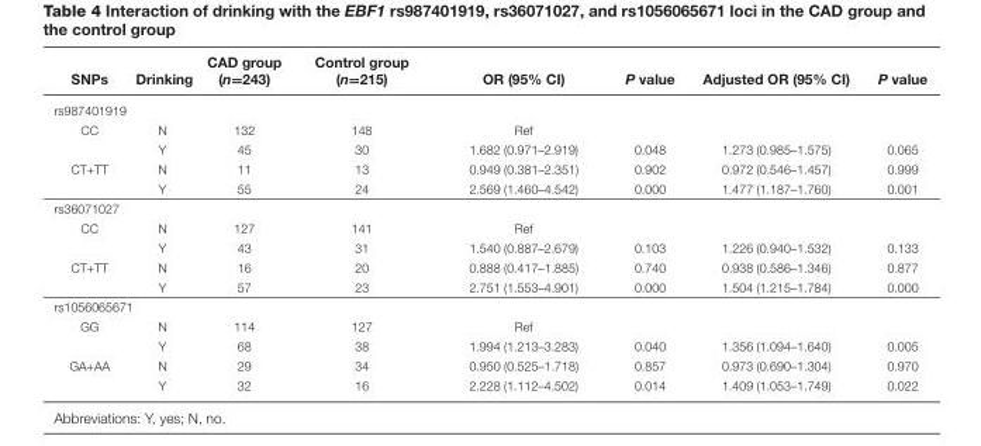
<table><thead><tr><td>SNPs</td><td>Drinking</td><td>CAD group (n=243)</td><td>Control group (n=215)</td><td>OR (95% CI)</td><td>P value</td><td>Adjusted OR (95% CI)</td><td>P value</td></tr></thead><tbody><tr><td colspan="8">rs987401919</td></tr><tr><td rowspan="2">CC</td><td>N</td><td>132</td><td>148</td><td>Ref</td><td></td><td></td><td></td></tr><tr><td>Y</td><td>45</td><td>30</td><td>1.682 (0.971–2.919)</td><td>0.048</td><td>1.273 (0.985–1.575)</td><td>0.065</td></tr><tr><td rowspan="2">CT+TT</td><td>N</td><td>11</td><td>13</td><td>0.949 (0.381–2.351)</td><td>0.902</td><td>0.972 (0.546–1.457)</td><td>0.999</td></tr><tr><td>Y</td><td>55</td><td>24</td><td>2.569 (1.460–4.542)</td><td>0.000</td><td>1.477 (1.187–1.760)</td><td>0.001</td></tr><tr><td colspan="8">rs36071027</td></tr><tr><td rowspan="2">CC</td><td>N</td><td>127</td><td>141</td><td>Ref</td><td></td><td></td><td></td></tr><tr><td>Y</td><td>43</td><td>31</td><td>1.540 (0.887–2.679)</td><td>0.103</td><td>1.226 (0.940–1.532)</td><td>0.133</td></tr><tr><td rowspan="2">CT+TT</td><td>N</td><td>16</td><td>20</td><td>0.888 (0.417–1.885)</td><td>0.740</td><td>0.938 (0.586–1.346)</td><td>0.877</td></tr><tr><td>Y</td><td>57</td><td>23</td><td>2.751 (1.553–4.901)</td><td>0.000</td><td>1.504 (1.215–1.784)</td><td>0.000</td></tr><tr><td colspan="8">rs1056065671</td></tr><tr><td rowspan="2">GG</td><td>N</td><td>114</td><td>127</td><td>Ref</td><td></td><td></td><td></td></tr><tr><td>Y</td><td>68</td><td>38</td><td>1.994 (1.213–3.283)</td><td>0.040</td><td>1.356 (1.094–1.640)</td><td>0.005</td></tr><tr><td rowspan="2">GA+AA</td><td>N</td><td>29</td><td>34</td><td>0.950 (0.525–1.718)</td><td>0.857</td><td>0.973 (0.690–1.304)</td><td>0.970</td></tr><tr><td>Y</td><td>32</td><td>16</td><td>2.228 (1.112–4.502)</td><td>0.014</td><td>1.409 (1.053–1.749)</td><td>0.022</td></tr></tbody></table>